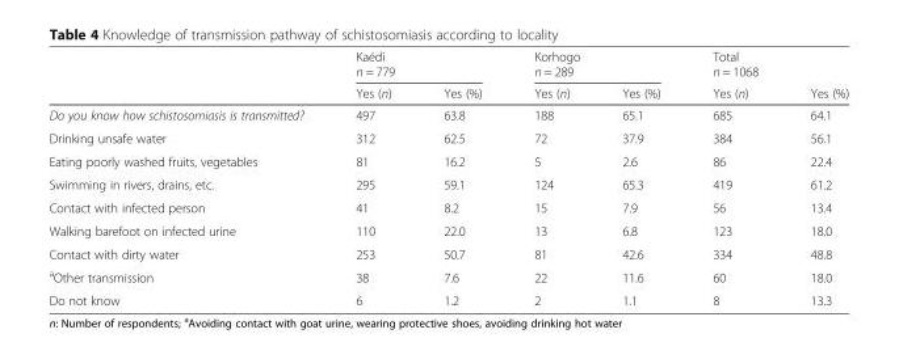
<table><thead><tr><td rowspan="2"></td><td colspan="2">Kaédi n = 779</td><td colspan="2">Korhogo n = 289</td><td rowspan="2">Total n = 1068 Yes (n)</td><td rowspan="2">Yes (%)</td></tr><tr><td>Yes (n)</td><td>Yes (%)</td><td>Yes (n)</td><td>Yes (%)</td></tr></thead><tbody><tr><td>Do you know how schistosomiasis is transmitted?</td><td>497</td><td>63.8</td><td>188</td><td>65.1</td><td>685</td><td>64.1</td></tr><tr><td>Drinking unsafe water</td><td>312</td><td>62.5</td><td>72</td><td>37.9</td><td>384</td><td>56.1</td></tr><tr><td>Eating poorly washed fruits, vegetables</td><td>81</td><td>16.2</td><td>5</td><td>2.6</td><td>86</td><td>22.4</td></tr><tr><td>Swimming in rivers, drains, etc.</td><td>295</td><td>59.1</td><td>124</td><td>65.3</td><td>419</td><td>61.2</td></tr><tr><td>Contact with infected person</td><td>41</td><td>8.2</td><td>15</td><td>7.9</td><td>56</td><td>13.4</td></tr><tr><td>Walking barefoot on infected urine</td><td>110</td><td>22.0</td><td>13</td><td>6.8</td><td>123</td><td>18.0</td></tr><tr><td>Contact with dirty water</td><td>253</td><td>50.7</td><td>81</td><td>42.6</td><td>334</td><td>48.8</td></tr><tr><td><sup>a</sup>Other transmission</td><td>38</td><td>7.6</td><td>22</td><td>11.6</td><td>60</td><td>18.0</td></tr><tr><td>Do not know</td><td>6</td><td>1.2</td><td>2</td><td>1.1</td><td>8</td><td>13.3</td></tr></tbody></table>